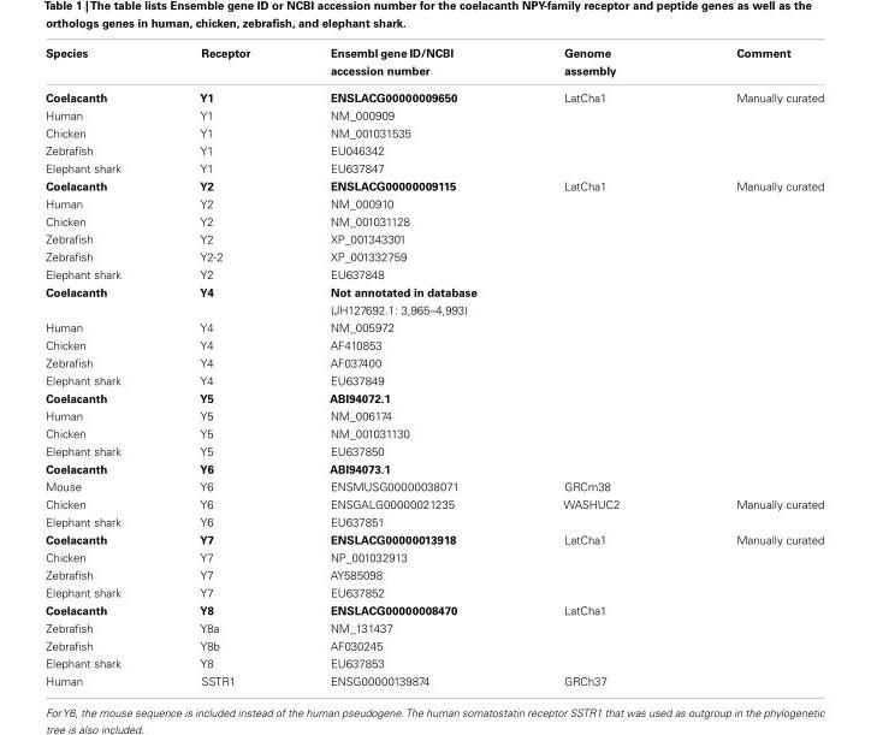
<table><thead><tr><td>Species</td><td>Receptor</td><td>Ensembl gene ID/NCBI accession number</td><td>Genome assembly</td><td>Comment</td></tr></thead><tbody><tr><td>Coelacanth</td><td>Y1</td><td>ENSLACG00000009650</td><td>LatCha1</td><td>Manually curated</td></tr><tr><td>Human</td><td>Y1</td><td>NM_000909</td><td></td><td></td></tr><tr><td>Chicken</td><td>Y1</td><td>NM_001031535</td><td></td><td></td></tr><tr><td>Zebrafish</td><td>Y1</td><td>EU046342</td><td></td><td></td></tr><tr><td>Elephant shark</td><td>Y1</td><td>EU637847</td><td></td><td></td></tr><tr><td>Coelacanth</td><td>Y2</td><td>ENSLACG00000009115</td><td>LatCha1</td><td>Manually curated</td></tr><tr><td>Human</td><td>Y2</td><td>NM_000910</td><td></td><td></td></tr><tr><td>Chicken</td><td>Y2</td><td>NM_001031128</td><td></td><td></td></tr><tr><td>Zebrafish</td><td>Y2</td><td>XP_001343301</td><td></td><td></td></tr><tr><td>Zebrafish</td><td>Y2-2</td><td>XP_001332759</td><td></td><td></td></tr><tr><td>Elephant shark</td><td>Y2</td><td>EU637848</td><td></td><td></td></tr><tr><td>Coelacanth</td><td>Y4</td><td>Not annotated in database (JH127692.1: 3,965–4,993)</td><td></td><td></td></tr><tr><td>Human</td><td>Y4</td><td>NM_005972</td><td></td><td></td></tr><tr><td>Chicken</td><td>Y4</td><td>AF410853</td><td></td><td></td></tr><tr><td>Zebrafish</td><td>Y4</td><td>AF037400</td><td></td><td></td></tr><tr><td>Elephant shark</td><td>Y4</td><td>EU637849</td><td></td><td></td></tr><tr><td>Coelacanth</td><td>Y5</td><td>ABI94072.1</td><td></td><td></td></tr><tr><td>Human</td><td>Y5</td><td>NM_006174</td><td></td><td></td></tr><tr><td>Chicken</td><td>Y5</td><td>NM_001031130</td><td></td><td></td></tr><tr><td>Elephant shark</td><td>Y5</td><td>EU637850</td><td></td><td></td></tr><tr><td>Coelacanth</td><td>Y6</td><td>ABI94073.1</td><td></td><td></td></tr><tr><td>Mouse</td><td>Y6</td><td>ENSMUSG00000038071</td><td>GRCm38</td><td></td></tr><tr><td>Chicken</td><td>Y6</td><td>ENSGALG00000021235</td><td>WASHUC2</td><td>Manually curated</td></tr><tr><td>Elephant shark</td><td>Y6</td><td>EU637851</td><td></td><td></td></tr><tr><td>Coelacanth</td><td>Y7</td><td>ENSLACG00000013918</td><td>LatCha1</td><td>Manually curated</td></tr><tr><td>Chicken</td><td>Y7</td><td>NP_001032913</td><td></td><td></td></tr><tr><td>Zebrafish</td><td>Y7</td><td>AY585098</td><td></td><td></td></tr><tr><td>Elephant shark</td><td>Y7</td><td>EU637852</td><td></td><td></td></tr><tr><td>Coelacanth</td><td>Y8</td><td>ENSLACG00000008470</td><td>LatCha1</td><td></td></tr><tr><td>Zebrafish</td><td>Y8a</td><td>NM_131437</td><td></td><td></td></tr><tr><td>Zebrafish</td><td>Y8b</td><td>AF030245</td><td></td><td></td></tr><tr><td>Elephant shark</td><td>Y8</td><td>EU637853</td><td></td><td></td></tr><tr><td>Human</td><td>SSTR1</td><td>ENSG00000139874</td><td>GRCh37</td><td></td></tr></tbody></table>